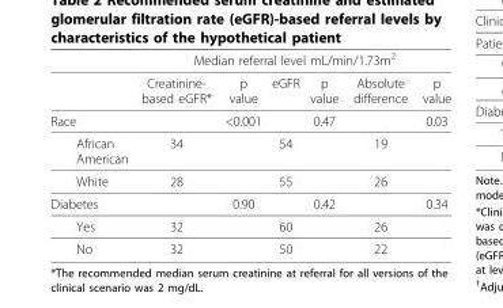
<table><thead><tr><td rowspan="2"></td><td colspan="6">Median referral level mL/min/1.73m<sup>2</sup></td></tr><tr><td>Creatinine- based eGFR*</td><td>p value</td><td>eGFR</td><td>p value</td><td>Absolute difference</td><td>p value</td></tr></thead><tbody><tr><td>Race</td><td></td><td>&lt;0.001</td><td></td><td>0.47</td><td></td><td>0.03</td></tr><tr><td>African American</td><td>34</td><td></td><td>54</td><td></td><td>19</td><td></td></tr><tr><td>White</td><td>28</td><td></td><td>55</td><td></td><td>26</td><td></td></tr><tr><td>Diabetes</td><td></td><td>0.90</td><td></td><td>0.42</td><td></td><td>0.34</td></tr><tr><td>Yes</td><td>32</td><td></td><td>60</td><td></td><td>26</td><td></td></tr><tr><td>No</td><td>32</td><td></td><td>50</td><td></td><td>22</td><td></td></tr></tbody></table>